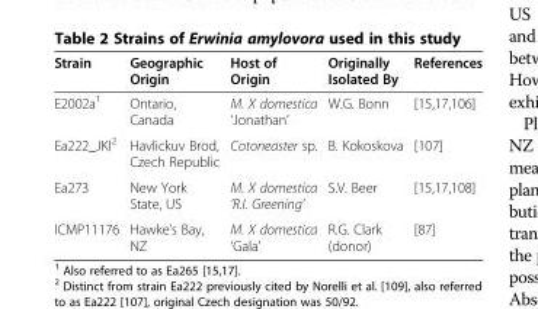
<table><thead><tr><td>Strain</td><td>Geographic Origin</td><td>Host of Origin</td><td>Originally Isolated By</td><td>References</td></tr></thead><tbody><tr><td>E2002a<sup>1</sup></td><td>Ontario, Canada</td><td>M. X domestica ‘Jonathan’</td><td>W.G. Bonn</td><td>[15,17,106]</td></tr><tr><td>Ea222_JKI<sup>2</sup></td><td>Havlickuv Brod, Czech Republic</td><td>Cotoneaster sp.</td><td>B. Kokoskova</td><td>[107]</td></tr><tr><td>Ea273</td><td>New York State, US</td><td>M. X domestica ‘R.I. Greening’</td><td>S.V. Beer</td><td>[15,17,108]</td></tr><tr><td>ICMP11176</td><td>Hawke’s Bay, NZ</td><td>M. X domestica ‘Gala’</td><td>R.G. Clark (donor)</td><td>[87]</td></tr></tbody></table>